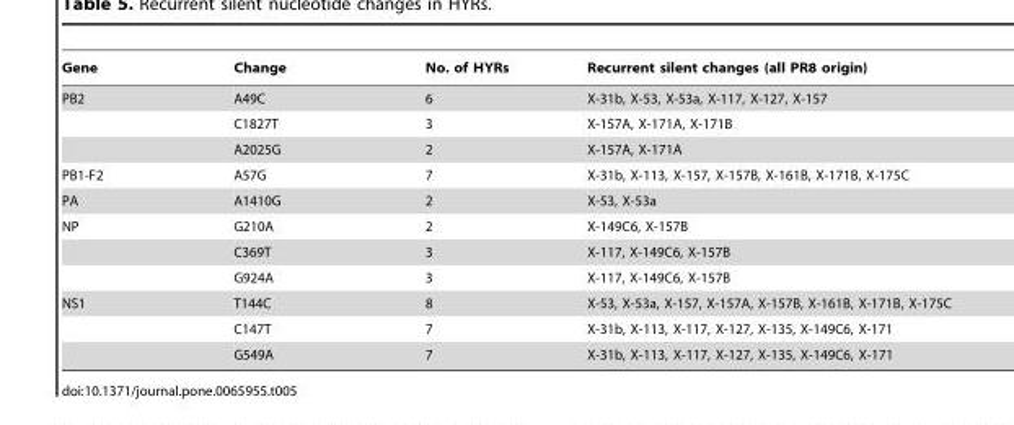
<table><thead><tr><td>Gene</td><td>Change</td><td>No. of HYRs</td><td>Recurrent silent changes (all PR8 origin)</td></tr></thead><tbody><tr><td rowspan="3">PB2</td><td>A49C</td><td>6</td><td>X-31b, X-53, X-53a, X-117, X-127, X-157</td></tr><tr><td>C1827T</td><td>3</td><td>X-157A, X-171A, X-171B</td></tr><tr><td>A2025G</td><td>2</td><td>X-157A, X-171A</td></tr><tr><td>PB1-F2</td><td>A57G</td><td>7</td><td>X-31b, X-113, X-157, X-157B, X-161B, X-171B, X-175C</td></tr><tr><td>PA</td><td>A1410G</td><td>2</td><td>X-53, X-53a</td></tr><tr><td rowspan="3">NP</td><td>G210A</td><td>2</td><td>X-149C6, X-157B</td></tr><tr><td>C369T</td><td>3</td><td>X-117, X-149C6, X-157B</td></tr><tr><td>G924A</td><td>3</td><td>X-117, X-149C6, X-157B</td></tr><tr><td rowspan="3">NS1</td><td>T144C</td><td>8</td><td>X-53, X-53a, X-157, X-157A, X-157B, X-161B, X-171B, X-175C</td></tr><tr><td>C147T</td><td>7</td><td>X-31b, X-113, X-117, X-127, X-135, X-149C6, X-171</td></tr><tr><td>G549A</td><td>7</td><td>X-31b, X-113, X-117, X-127, X-135, X-149C6, X-171</td></tr></tbody></table>